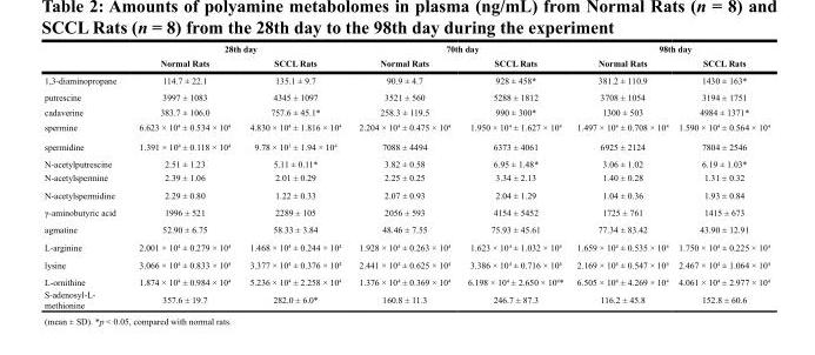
<table><thead><tr><td rowspan="2"></td><td colspan="2">28th day</td><td colspan="2">70th day</td><td colspan="2">98th day</td></tr><tr><td>Normal Rats</td><td>SCCL Rats</td><td>Normal Rats</td><td>SCCL Rats</td><td>Normal Rats</td><td>SCCL Rats</td></tr></thead><tbody><tr><td>1,3-diaminopropane</td><td>114.7 ± 22.1</td><td>135.1 ± 9.7</td><td>90.9 ± 4.7</td><td>928 ± 458*</td><td>381.2 ± 110.9</td><td>1430 ± 163*</td></tr><tr><td>putrescine</td><td>3997 ± 1083</td><td>4345 ± 1097</td><td>3521 ± 560</td><td>5288 ± 1812</td><td>3708 ± 1054</td><td>3194 ± 1751</td></tr><tr><td>cadaverine</td><td>383.7 ± 106.0</td><td>757.6 ± 45.1*</td><td>258.3 ± 119.5</td><td>990 ± 300*</td><td>1300 ± 503</td><td>4984 ± 1371*</td></tr><tr><td>spermine</td><td>6.623 × 10<sup>4</sup> ± 0.534 × 10<sup>4</sup></td><td>4.830 × 10<sup>4</sup> ± 1.816 × 10<sup>4</sup></td><td>2.204 × 10<sup>4</sup> ± 0.475 × 10<sup>4</sup></td><td>1.950 × 10<sup>4</sup> ± 1.627 × 10<sup>4</sup></td><td>1.497 × 10<sup>4</sup> ± 0.708 × 10<sup>4</sup></td><td>1.590 × 10<sup>4</sup> ± 0.564 × 10<sup>4</sup></td></tr><tr><td>spermidine</td><td>1.391 × 10<sup>4</sup> ± 0.118 × 10<sup>4</sup></td><td>9.78 × 10<sup>3</sup> ± 1.94 × 10<sup>4</sup></td><td>7088 ± 4494</td><td>6373 ± 4061</td><td>6925 ± 2124</td><td>7804 ± 2546</td></tr><tr><td>N-acetylputrescine</td><td>2.51 ± 1.23</td><td>5.11 ± 0.11*</td><td>3.82 ± 0.58</td><td>6.95 ± 1.48*</td><td>3.06 ± 1.02</td><td>6.19 ± 1.03*</td></tr><tr><td>N-acetylspermine</td><td>2.39 ± 1.06</td><td>2.01 ± 0.29</td><td>2.25 ± 0.25</td><td>3.34 ± 2.13</td><td>1.40 ± 0.28</td><td>1.31 ± 0.32</td></tr><tr><td>N-acetylspermidine</td><td>2.29 ± 0.80</td><td>1.22 ± 0.33</td><td>2.07 ± 0.93</td><td>2.04 ± 1.29</td><td>1.04 ± 0.36</td><td>1.93 ± 0.84</td></tr><tr><td>γ-aminobutyric acid</td><td>1996 ± 521</td><td>2289 ± 105</td><td>2056 ± 593</td><td>4154 ± 5452</td><td>1725 ± 761</td><td>1415 ± 673</td></tr><tr><td>agmatine</td><td>52.90 ± 6.75</td><td>58.33 ± 3.84</td><td>48.46 ± 7.55</td><td>75.93 ± 45.61</td><td>77.34 ± 83.42</td><td>43.90 ± 12.91</td></tr><tr><td>L-arginine</td><td>2.001 × 10<sup>4</sup> ± 0.279 × 10<sup>4</sup></td><td>1.468 × 10<sup>4</sup> ± 0.244 × 10<sup>4</sup></td><td>1.928 × 10<sup>4</sup> ± 0.263 × 10<sup>4</sup></td><td>1.623 × 10<sup>4</sup> ± 1.032 × 10<sup>4</sup></td><td>1.659 × 10<sup>4</sup> ± 0.535 × 10<sup>4</sup></td><td>1.750 × 10<sup>4</sup> ± 0.225 × 10<sup>4</sup></td></tr><tr><td>lysine</td><td>3.066 × 10<sup>4</sup> ± 0.833 × 10<sup>4</sup></td><td>3.377 × 10<sup>4</sup> ± 0.376 × 10<sup>4</sup></td><td>2.441 × 10<sup>4</sup> ± 0.625 × 10<sup>4</sup></td><td>3.386 × 10<sup>4</sup> ± 0.716 × 10<sup>4</sup></td><td>2.169 × 10<sup>4</sup> ± 0.547 × 10<sup>4</sup></td><td>2.467 × 10<sup>4</sup> ± 1.064 × 10<sup>4</sup></td></tr><tr><td>L-ornithine</td><td>1.874 × 10<sup>4</sup> ± 0.984 × 10<sup>4</sup></td><td>5.236 × 10<sup>4</sup> ± 2.258 × 10<sup>4</sup></td><td>1.376 × 10<sup>4</sup> ± 0.369 × 10<sup>4</sup></td><td>6.198 × 10<sup>4</sup> ± 2.650 × 10<sup>4</sup>*</td><td>6.505 × 10<sup>4</sup> ± 4.269 × 10<sup>4</sup></td><td>4.061 × 10<sup>4</sup> ± 2.977 × 10<sup>4</sup></td></tr><tr><td>S-adenosyl-L- methionine</td><td>357.6 ± 19.7</td><td>282.0 ± 6.0*</td><td>160.8 ± 11.3</td><td>246.7 ± 87.3</td><td>116.2 ± 45.8</td><td>152.8 ± 60.6</td></tr></tbody></table>